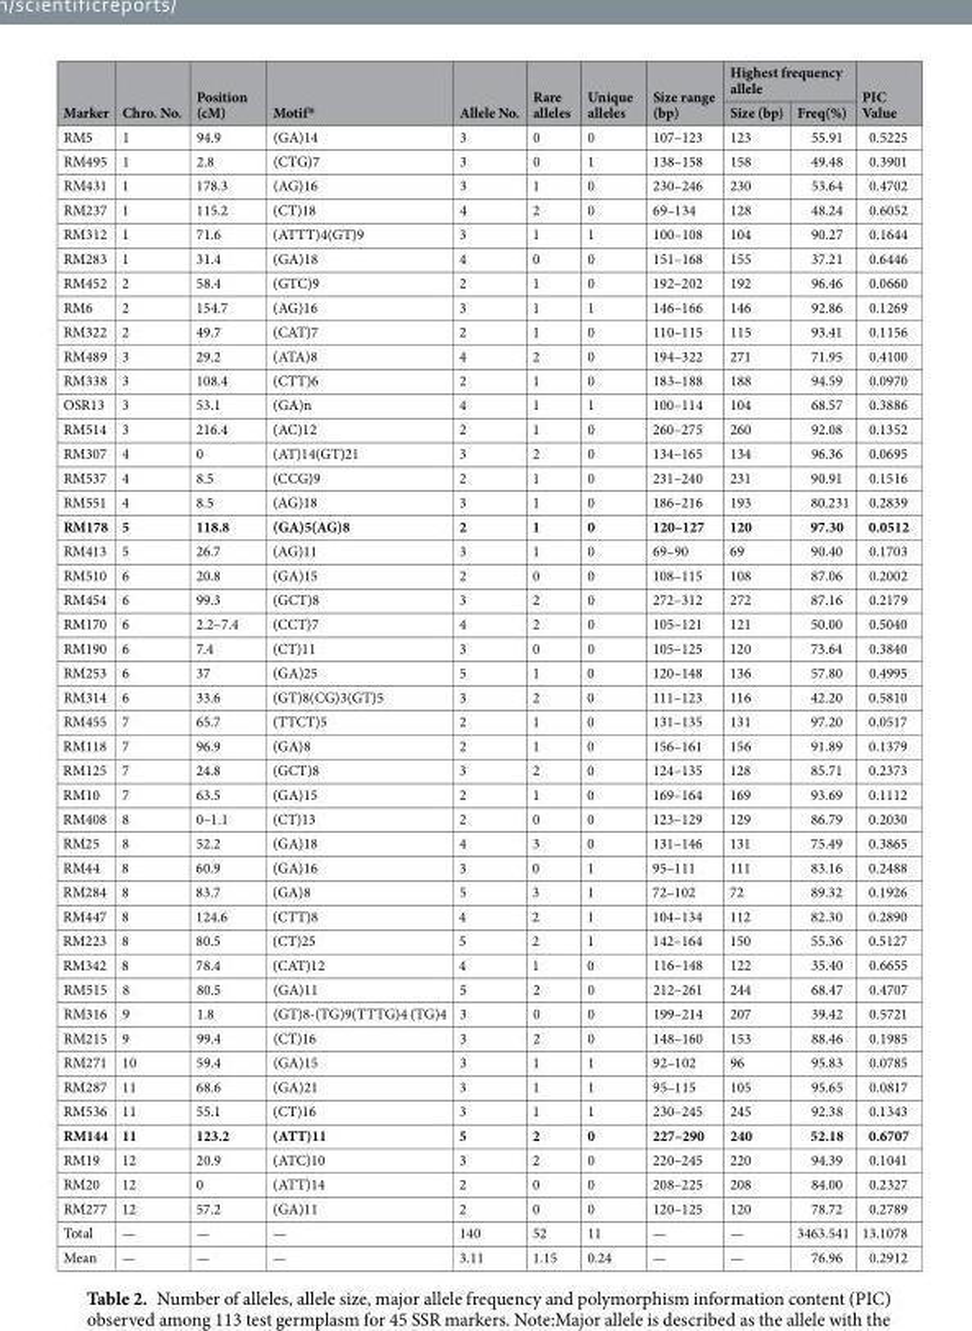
<table><thead><tr><td rowspan="2">Marker</td><td rowspan="2">Chro. No.</td><td rowspan="2">Position (cM)</td><td rowspan="2">Motif*</td><td rowspan="2">Allele No.</td><td rowspan="2">Rare alleles</td><td rowspan="2">Unique alleles</td><td rowspan="2">Size range (bp)</td><td colspan="2">Highest frequency allele</td><td rowspan="2">PIC Value</td></tr><tr><td>Size (bp)</td><td>Freq(%)</td></tr></thead><tbody><tr><td>RM5</td><td>1</td><td>94.9</td><td>(GA)14</td><td>3</td><td>0</td><td>0</td><td>107–123</td><td>123</td><td>55.91</td><td>0.5225</td></tr><tr><td>RM495</td><td>1</td><td>2.8</td><td>(CTG)7</td><td>3</td><td>0</td><td>1</td><td>138–158</td><td>158</td><td>49.48</td><td>0.3901</td></tr><tr><td>RM431</td><td>1</td><td>178.3</td><td>(AG)16</td><td>3</td><td>1</td><td>0</td><td>230–246</td><td>230</td><td>53.64</td><td>0.4702</td></tr><tr><td>RM237</td><td>1</td><td>115.2</td><td>(CT)18</td><td>4</td><td>2</td><td>0</td><td>69–134</td><td>128</td><td>48.24</td><td>0.6052</td></tr><tr><td>RM312</td><td>1</td><td>71.6</td><td>(ATTT)4(GT)9</td><td>3</td><td>1</td><td>1</td><td>100–108</td><td>104</td><td>90.27</td><td>0.1644</td></tr><tr><td>RM283</td><td>1</td><td>31.4</td><td>(GA)18</td><td>4</td><td>0</td><td>0</td><td>151–168</td><td>155</td><td>37.21</td><td>0.6446</td></tr><tr><td>RM452</td><td>2</td><td>58.4</td><td>(GTC)9</td><td>2</td><td>1</td><td>0</td><td>192–202</td><td>192</td><td>96.46</td><td>0.0660</td></tr><tr><td>RM6</td><td>2</td><td>154.7</td><td>(AG)16</td><td>3</td><td>1</td><td>1</td><td>146–166</td><td>146</td><td>92.86</td><td>0.1269</td></tr><tr><td>RM322</td><td>2</td><td>49.7</td><td>(CAT)7</td><td>2</td><td>1</td><td>0</td><td>110–115</td><td>115</td><td>93.41</td><td>0.1156</td></tr><tr><td>RM489</td><td>3</td><td>29.2</td><td>(ATA)8</td><td>4</td><td>2</td><td>0</td><td>194–322</td><td>271</td><td>71.95</td><td>0.4100</td></tr><tr><td>RM338</td><td>3</td><td>108.4</td><td>(CTT)6</td><td>2</td><td>1</td><td>0</td><td>183–188</td><td>188</td><td>94.59</td><td>0.0970</td></tr><tr><td>OSR13</td><td>3</td><td>53.1</td><td>(GA)n</td><td>4</td><td>1</td><td>1</td><td>100–114</td><td>104</td><td>68.57</td><td>0.3886</td></tr><tr><td>RM514</td><td>3</td><td>216.4</td><td>(AC)12</td><td>2</td><td>1</td><td>0</td><td>260–275</td><td>260</td><td>92.08</td><td>0.1352</td></tr><tr><td>RM307</td><td>4</td><td>0</td><td>(AT)14(GT)21</td><td>3</td><td>2</td><td>0</td><td>134–165</td><td>134</td><td>96.36</td><td>0.0695</td></tr><tr><td>RM537</td><td>4</td><td>8.5</td><td>(CCG)9</td><td>2</td><td>1</td><td>0</td><td>231–240</td><td>231</td><td>90.91</td><td>0.1516</td></tr><tr><td>RM551</td><td>4</td><td>8.5</td><td>(AG)18</td><td>3</td><td>1</td><td>0</td><td>186–216</td><td>193</td><td>80.231</td><td>0.2839</td></tr><tr><td>RM178</td><td>5</td><td>118.8</td><td>(GA)5(AG)8</td><td>2</td><td>1</td><td>0</td><td>120–127</td><td>120</td><td>97.30</td><td>0.0512</td></tr><tr><td>RM413</td><td>5</td><td>26.7</td><td>(AG)11</td><td>3</td><td>1</td><td>0</td><td>69–90</td><td>69</td><td>90.40</td><td>0.1703</td></tr><tr><td>RM510</td><td>6</td><td>20.8</td><td>(GA)15</td><td>2</td><td>0</td><td>0</td><td>108–115</td><td>108</td><td>87.06</td><td>0.2002</td></tr><tr><td>RM454</td><td>6</td><td>99.3</td><td>(GCT)8</td><td>3</td><td>2</td><td>0</td><td>272–312</td><td>272</td><td>87.16</td><td>0.2179</td></tr><tr><td>RM170</td><td>6</td><td>2.2–7.4</td><td>(CCT)7</td><td>4</td><td>2</td><td>0</td><td>105–121</td><td>121</td><td>50.00</td><td>0.5040</td></tr><tr><td>RM190</td><td>6</td><td>7.4</td><td>(CT)11</td><td>3</td><td>0</td><td>0</td><td>105–125</td><td>120</td><td>73.64</td><td>0.3840</td></tr><tr><td>RM253</td><td>6</td><td>37</td><td>(GA)25</td><td>5</td><td>1</td><td>0</td><td>120–148</td><td>136</td><td>57.80</td><td>0.4995</td></tr><tr><td>RM314</td><td>6</td><td>33.6</td><td>(GT)8(CG)3(GT)5</td><td>3</td><td>2</td><td>0</td><td>111–123</td><td>116</td><td>42.20</td><td>0.5810</td></tr><tr><td>RM455</td><td>7</td><td>65.7</td><td>(TTCT)5</td><td>2</td><td>1</td><td>0</td><td>131–135</td><td>131</td><td>97.20</td><td>0.0517</td></tr><tr><td>RM118</td><td>7</td><td>96.9</td><td>(GA)8</td><td>2</td><td>1</td><td>0</td><td>156–161</td><td>156</td><td>91.89</td><td>0.1379</td></tr><tr><td>RM125</td><td>7</td><td>24.8</td><td>(GCT)8</td><td>3</td><td>2</td><td>0</td><td>124–135</td><td>128</td><td>85.71</td><td>0.2373</td></tr><tr><td>RM10</td><td>7</td><td>63.5</td><td>(GA)15</td><td>2</td><td>1</td><td>0</td><td>169–164</td><td>169</td><td>93.69</td><td>0.1112</td></tr><tr><td>RM408</td><td>8</td><td>0–1.1</td><td>(CT)13</td><td>2</td><td>0</td><td>0</td><td>123–129</td><td>129</td><td>86.79</td><td>0.2030</td></tr><tr><td>RM25</td><td>8</td><td>52.2</td><td>(GA)18</td><td>4</td><td>3</td><td>0</td><td>131–146</td><td>131</td><td>75.49</td><td>0.3865</td></tr><tr><td>RM44</td><td>8</td><td>60.9</td><td>(GA)16</td><td>3</td><td>0</td><td>1</td><td>95–111</td><td>111</td><td>83.16</td><td>0.2488</td></tr><tr><td>RM284</td><td>8</td><td>83.7</td><td>(GA)8</td><td>5</td><td>3</td><td>1</td><td>72–102</td><td>72</td><td>89.32</td><td>0.1926</td></tr><tr><td>RM447</td><td>8</td><td>124.6</td><td>(CTT)8</td><td>4</td><td>2</td><td>1</td><td>104–134</td><td>112</td><td>82.30</td><td>0.2890</td></tr><tr><td>RM223</td><td>8</td><td>80.5</td><td>(CT)25</td><td>5</td><td>2</td><td>1</td><td>142–164</td><td>150</td><td>55.36</td><td>0.5127</td></tr><tr><td>RM342</td><td>8</td><td>78.4</td><td>(CAT)12</td><td>4</td><td>1</td><td>0</td><td>116–148</td><td>122</td><td>35.40</td><td>0.6655</td></tr><tr><td>RM515</td><td>8</td><td>80.5</td><td>(GA)11</td><td>5</td><td>2</td><td>0</td><td>212–261</td><td>244</td><td>68.47</td><td>0.4707</td></tr><tr><td>RM316</td><td>9</td><td>1.8</td><td>(GT)8-(TG)9(TTTG)4 (TG)4</td><td>3</td><td>0</td><td>0</td><td>199–214</td><td>207</td><td>39.42</td><td>0.5721</td></tr><tr><td>RM215</td><td>9</td><td>99.4</td><td>(CT)16</td><td>3</td><td>2</td><td>0</td><td>148–160</td><td>153</td><td>88.46</td><td>0.1985</td></tr><tr><td>RM271</td><td>10</td><td>59.4</td><td>(GA)15</td><td>3</td><td>1</td><td>1</td><td>92–102</td><td>96</td><td>95.83</td><td>0.0785</td></tr><tr><td>RM287</td><td>11</td><td>68.6</td><td>(GA)21</td><td>3</td><td>1</td><td>1</td><td>95–115</td><td>105</td><td>95.65</td><td>0.0817</td></tr><tr><td>RM536</td><td>11</td><td>55.1</td><td>(CT)16</td><td>3</td><td>1</td><td>1</td><td>230–245</td><td>245</td><td>92.38</td><td>0.1343</td></tr><tr><td>RM144</td><td>11</td><td>123.2</td><td>(ATT)11</td><td>5</td><td>2</td><td>0</td><td>227–290</td><td>240</td><td>52.18</td><td>0.6707</td></tr><tr><td>RM19</td><td>12</td><td>20.9</td><td>(ATC)10</td><td>3</td><td>2</td><td>0</td><td>220–245</td><td>220</td><td>94.39</td><td>0.1041</td></tr><tr><td>RM20</td><td>12</td><td>0</td><td>(ATT)14</td><td>2</td><td>0</td><td>0</td><td>208–225</td><td>208</td><td>84.00</td><td>0.2327</td></tr><tr><td>RM277</td><td>12</td><td>57.2</td><td>(GA)11</td><td>2</td><td>0</td><td>0</td><td>120–125</td><td>120</td><td>78.72</td><td>0.2789</td></tr><tr><td>Total</td><td>—</td><td>—</td><td>—</td><td>140</td><td>52</td><td>11</td><td>—</td><td>—</td><td>3463.541</td><td>13.1078</td></tr><tr><td>Mean</td><td>—</td><td>—</td><td>—</td><td>3.11</td><td>1.15</td><td>0.24</td><td>—</td><td>—</td><td>76.96</td><td>0.2912</td></tr></tbody></table>